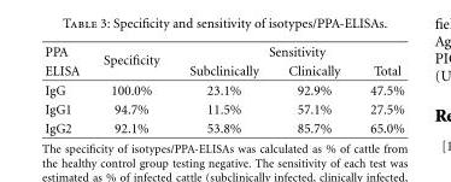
<table><thead><tr><td rowspan="2">PPA ELISA</td><td rowspan="2">Specificity</td><td colspan="3">Sensitivity</td></tr><tr><td>Subclinically</td><td>Clinically</td><td>Total</td></tr></thead><tbody><tr><td>IgG</td><td>100.0%</td><td>23.1%</td><td>92.9%</td><td>47.5%</td></tr><tr><td>IgG1</td><td>94.7%</td><td>11.5%</td><td>57.1%</td><td>27.5%</td></tr><tr><td>IgG2</td><td>92.1%</td><td>53.8%</td><td>85.7%</td><td>65.0%</td></tr></tbody></table>